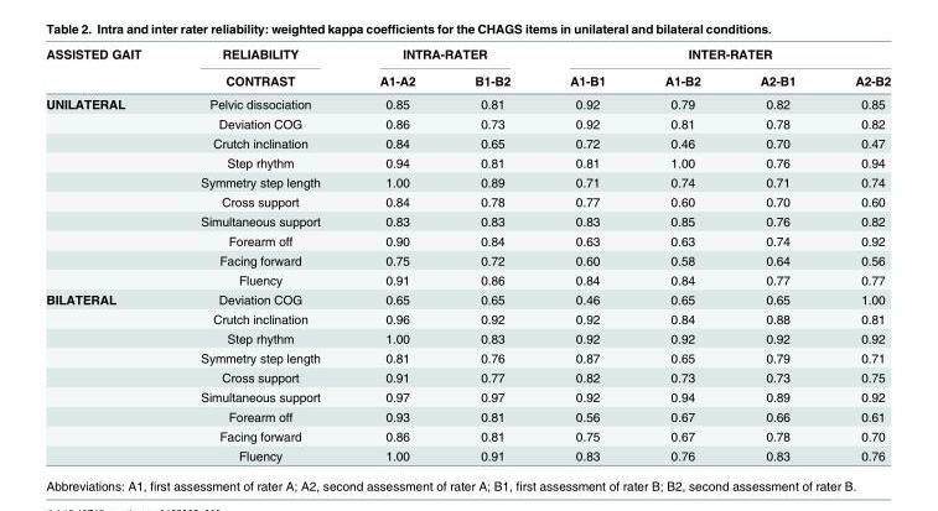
<table><thead><tr><td rowspan="2">ASSISTED GAIT</td><td rowspan="2">RELIABILITY CONTRAST</td><td colspan="2">INTRA-RATER</td><td colspan="4">INTER-RATER</td></tr><tr><td>A1-A2</td><td>B1-B2</td><td>A1-B1</td><td>A1-B2</td><td>A2-B1</td><td>A2-B2</td></tr></thead><tbody><tr><td rowspan="10">UNILATERAL</td><td>Pelvic dissociation</td><td>0.85</td><td>0.81</td><td>0.92</td><td>0.79</td><td>0.82</td><td>0.85</td></tr><tr><td>Deviation COG</td><td>0.86</td><td>0.73</td><td>0.92</td><td>0.81</td><td>0.78</td><td>0.82</td></tr><tr><td>Crutch inclination</td><td>0.84</td><td>0.65</td><td>0.72</td><td>0.46</td><td>0.70</td><td>0.47</td></tr><tr><td>Step rhythm</td><td>0.94</td><td>0.81</td><td>0.81</td><td>1.00</td><td>0.76</td><td>0.94</td></tr><tr><td>Symmetry step length</td><td>1.00</td><td>0.89</td><td>0.71</td><td>0.74</td><td>0.71</td><td>0.74</td></tr><tr><td>Cross support</td><td>0.84</td><td>0.78</td><td>0.77</td><td>0.60</td><td>0.70</td><td>0.60</td></tr><tr><td>Simultaneous support</td><td>0.83</td><td>0.83</td><td>0.83</td><td>0.85</td><td>0.76</td><td>0.82</td></tr><tr><td>Forearm off</td><td>0.90</td><td>0.84</td><td>0.63</td><td>0.63</td><td>0.74</td><td>0.92</td></tr><tr><td>Facing forward</td><td>0.75</td><td>0.72</td><td>0.60</td><td>0.58</td><td>0.64</td><td>0.56</td></tr><tr><td>Fluency</td><td>0.91</td><td>0.86</td><td>0.84</td><td>0.84</td><td>0.77</td><td>0.77</td></tr><tr><td rowspan="9">BILATERAL</td><td>Deviation COG</td><td>0.65</td><td>0.65</td><td>0.46</td><td>0.65</td><td>0.65</td><td>1.00</td></tr><tr><td>Crutch inclination</td><td>0.96</td><td>0.92</td><td>0.92</td><td>0.84</td><td>0.88</td><td>0.81</td></tr><tr><td>Step rhythm</td><td>1.00</td><td>0.83</td><td>0.92</td><td>0.92</td><td>0.92</td><td>0.92</td></tr><tr><td>Symmetry step length</td><td>0.81</td><td>0.76</td><td>0.87</td><td>0.65</td><td>0.79</td><td>0.71</td></tr><tr><td>Cross support</td><td>0.91</td><td>0.77</td><td>0.82</td><td>0.73</td><td>0.73</td><td>0.75</td></tr><tr><td>Simultaneous support</td><td>0.97</td><td>0.97</td><td>0.92</td><td>0.94</td><td>0.89</td><td>0.92</td></tr><tr><td>Forearm off</td><td>0.93</td><td>0.81</td><td>0.56</td><td>0.67</td><td>0.66</td><td>0.61</td></tr><tr><td>Facing forward</td><td>0.86</td><td>0.81</td><td>0.75</td><td>0.67</td><td>0.78</td><td>0.70</td></tr><tr><td>Fluency</td><td>1.00</td><td>0.91</td><td>0.83</td><td>0.76</td><td>0.83</td><td>0.76</td></tr></tbody></table>